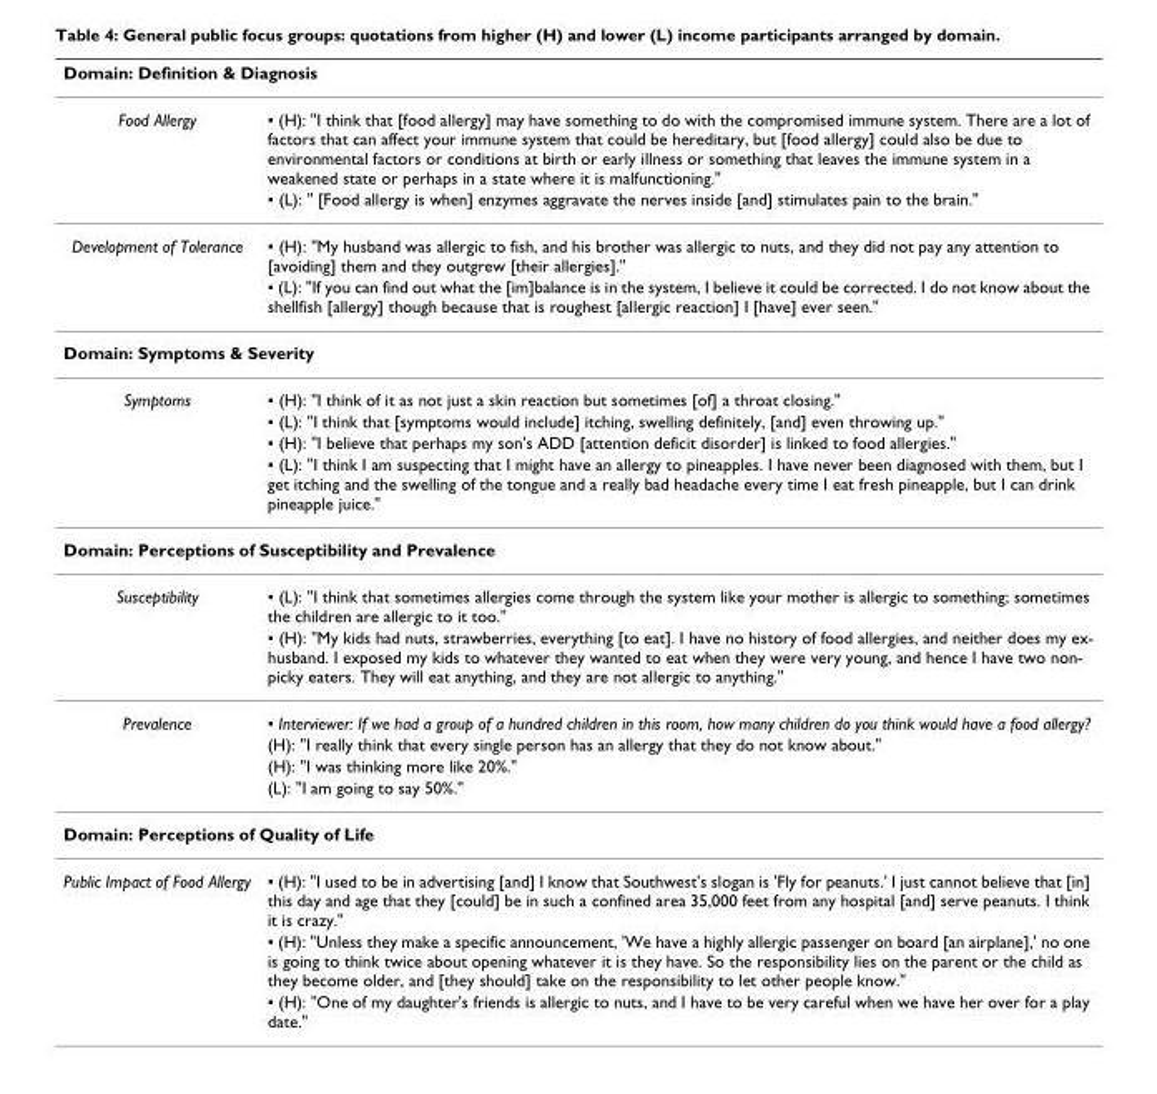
<table><thead><tr><td colspan="2">Domain: Definition &amp; Diagnosis</td></tr><tr><td>Food Allergy</td><td>▪ (H): &quot;I think that [food allergy] may have something to do with the compromised immune system. There are a lot of factors that can affect your immune system that could be hereditary, but [food allergy] could also be due to environmental factors or conditions at birth or early illness or something that leaves the immune system in a weakened state or perhaps in a state where it is malfunctioning.&quot;</td></tr></thead><tbody><tr><td></td><td>▪ (L): &quot; [Food allergy is when] enzymes aggravate the nerves inside [and] stimulates pain to the brain.&quot;</td></tr><tr><td rowspan="2">Development of Tolerance</td><td>▪ (H): &quot;My husband was allergic to fish, and his brother was allergic to nuts, and they did not pay any attention to [avoiding] them and they outgrew [their allergies].&quot;</td></tr><tr><td>▪ (L): &quot;If you can find out what the [im]balance is in the system, I believe it could be corrected. I do not know about the shellfish [allergy] though because that is roughest [allergic reaction] I [have] ever seen.&quot;</td></tr><tr><td colspan="2">Domain: Symptoms &amp; Severity</td></tr><tr><td rowspan="4">Symptoms</td><td>▪ (H): &quot;I think of it as not just a skin reaction but sometimes [of] a throat closing.&quot;</td></tr><tr><td>▪ (L): &quot;I think that [symptoms would include] itching, swelling definitely, [and] even throwing up.&quot;</td></tr><tr><td>▪ (H): &quot;I believe that perhaps my son&#x27;s ADD [attention deficit disorder] is linked to food allergies.&quot;</td></tr><tr><td>▪ (L): &quot;I think I am suspecting that I might have an allergy to pineapples. I have never been diagnosed with them, but I get itching and the swelling of the tongue and a really bad headache every time I eat fresh pineapple, but I can drink pineapple juice.&quot;</td></tr><tr><td colspan="2">Domain: Perceptions of Susceptibility and Prevalence</td></tr><tr><td rowspan="2">Susceptibility</td><td>▪ (L): &quot;I think that sometimes allergies come through the system like your mother is allergic to something; sometimes the children are allergic to it too.&quot;</td></tr><tr><td>▪ (H): &quot;My kids had nuts, strawberries, everything [to eat]. I have no history of food allergies, and neither does my ex- husband. I exposed my kids to whatever they wanted to eat when they were very young, and hence I have two non- picky eaters. They will eat anything, and they are not allergic to anything.&quot;</td></tr><tr><td rowspan="4">Prevalence</td><td>▪ Interviewer: If we had a group of a hundred children in this room, how many children do you think would have a food allergy?</td></tr><tr><td>(H): &quot;I really think that every single person has an allergy that they do not know about.&quot;</td></tr><tr><td>(H): &quot;I was thinking more like 20%.&quot;</td></tr><tr><td>(L): &quot;I am going to say 50%.&quot;</td></tr><tr><td colspan="2">Domain: Perceptions of Quality of Life</td></tr><tr><td rowspan="3">Public Impact of Food Allergy</td><td>▪ (H): &quot;I used to be in advertising [and] I know that Southwest&#x27;s slogan is &#x27;Fly for peanuts.&#x27; I just cannot believe that [in] this day and age that they [could] be in such a confined area 35,000 feet from any hospital [and] serve peanuts. I think it is crazy.&quot;</td></tr><tr><td>▪ (H): &quot;Unless they make a specific announcement, &#x27;We have a highly allergic passenger on board [an airplane],&#x27; no one is going to think twice about opening whatever it is they have. So the responsibility lies on the parent or the child as they become older, and [they should] take on the responsibility to let other people know.&quot;</td></tr><tr><td>▪ (H): &quot;One of my daughter&#x27;s friends is allergic to nuts, and I have to be very careful when we have her over for a play date.&quot;</td></tr></tbody></table>